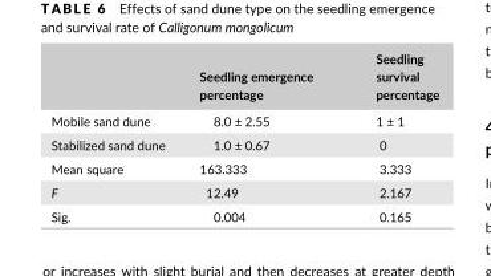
<table><thead><tr><td></td><td>Seedling emergence percentage</td><td>Seedling survival percentage</td></tr></thead><tbody><tr><td>Mobile sand dune</td><td>8.0 ± 2.55</td><td>1 ± 1</td></tr><tr><td>Stabilized sand dune</td><td>1.0 ± 0.67</td><td>0</td></tr><tr><td>Mean square</td><td>163.333</td><td>3.333</td></tr><tr><td>F</td><td>12.49</td><td>2.167</td></tr><tr><td>Sig.</td><td>0.004</td><td>0.165</td></tr></tbody></table>